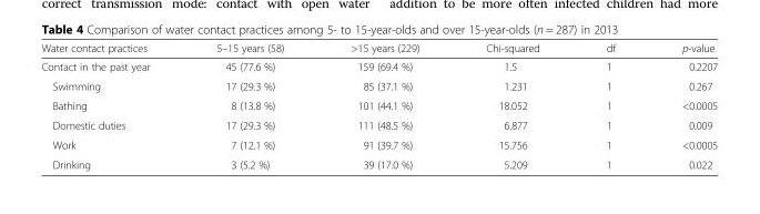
<table><thead><tr><td>Water contact practices</td><td>5–15 years (58)</td><td>&gt;15 years (229)</td><td>Chi-squared</td><td>df</td><td>p-value</td></tr></thead><tbody><tr><td>Contact in the past year</td><td>45 (77.6 %)</td><td>159 (69.4 %)</td><td>1.5</td><td>1</td><td>0.2207</td></tr><tr><td>Swimming</td><td>17 (29.3 %)</td><td>85 (37.1 %)</td><td>1.231</td><td>1</td><td>0.267</td></tr><tr><td>Bathing</td><td>8 (13.8 %)</td><td>101 (44.1 %)</td><td>18.052</td><td>1</td><td>&lt;0.0005</td></tr><tr><td>Domestic duties</td><td>17 (29.3 %)</td><td>111 (48.5 %)</td><td>6.877</td><td>1</td><td>0.009</td></tr><tr><td>Work</td><td>7 (12.1 %)</td><td>91 (39.7 %)</td><td>15.756</td><td>1</td><td>&lt;0.0005</td></tr><tr><td>Drinking</td><td>3 (5.2 %)</td><td>39 (17.0 %)</td><td>5.209</td><td>1</td><td>0.022</td></tr></tbody></table>